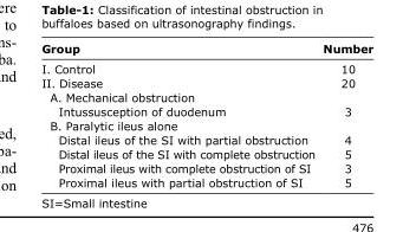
<table><thead><tr><td>Group</td><td>Number</td></tr></thead><tbody><tr><td>I. Control</td><td>10</td></tr><tr><td>II. Disease</td><td>20</td></tr><tr><td colspan="2">A. Mechanical obstruction</td></tr><tr><td>Intussusception of duodenum</td><td>3</td></tr><tr><td colspan="2">B. Paralytic ileus alone</td></tr><tr><td>Distal ileus of the SI with partial obstruction</td><td>4</td></tr><tr><td>Distal ileus of the SI with complete obstruction</td><td>5</td></tr><tr><td>Proximal ileus with complete obstruction of SI</td><td>3</td></tr><tr><td>Proximal ileus with partial obstruction of SI</td><td>5</td></tr></tbody></table>